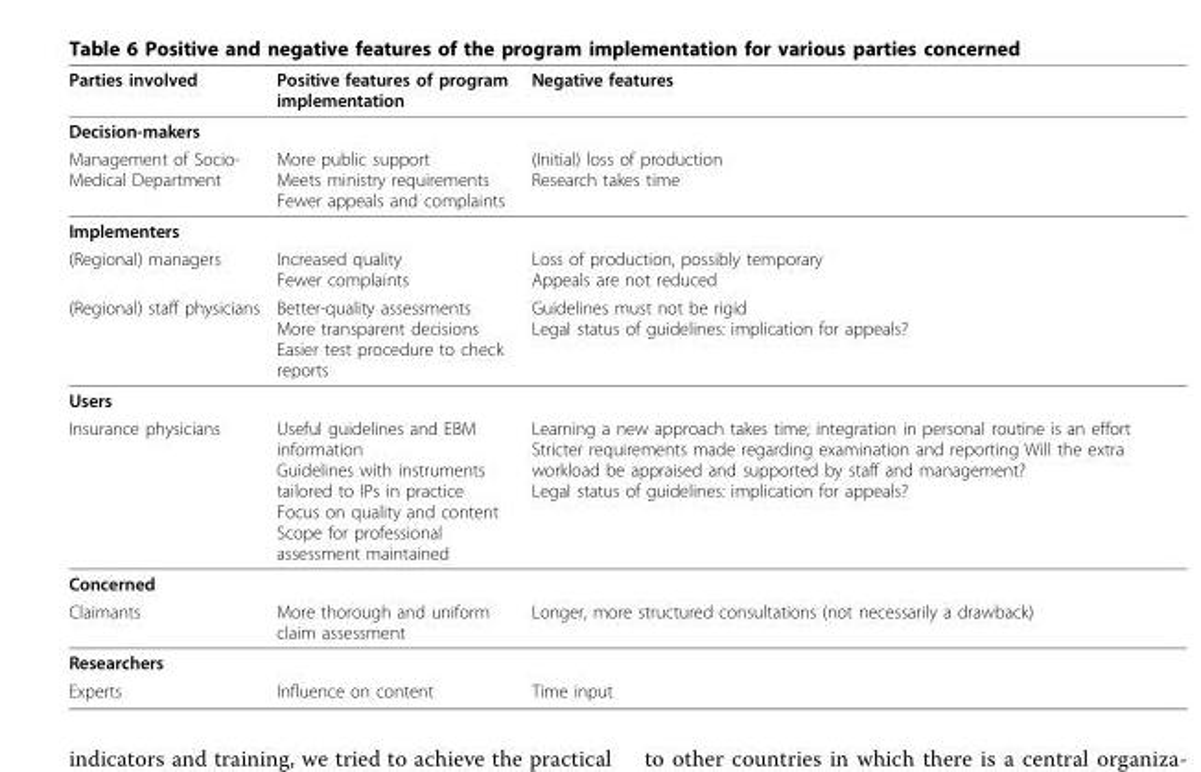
<table><thead><tr><td>Parties involved</td><td>Positive features of program implementation</td><td>Negative features</td></tr></thead><tbody><tr><td colspan="3">Decision-makers</td></tr><tr><td>Management of Socio- Medical Department</td><td>More public support Meets ministry requirements Fewer appeals and complaints</td><td>(Initial) loss of production Research takes time</td></tr><tr><td colspan="3">Implementers</td></tr><tr><td>(Regional) managers</td><td>Increased quality Fewer complaints</td><td>Loss of production, possibly temporary Appeals are not reduced</td></tr><tr><td>(Regional) staff physicians</td><td>Better-quality assessments More transparent decisions Easier test procedure to check reports</td><td>Guidelines must not be rigid Legal status of guidelines: implication for appeals?</td></tr><tr><td colspan="3">Users</td></tr><tr><td>Insurance physicians</td><td>Useful guidelines and EBM information Guidelines with instruments tailored to IPs in practice Focus on quality and content Scope for professional assessment maintained</td><td>Learning a new approach takes time; integration in personal routine is an effort Stricter requirements made regarding examination and reporting Will the extra workload be appraised and supported by staff and management? Legal status of guidelines: implication for appeals?</td></tr><tr><td colspan="3">Concerned</td></tr><tr><td>Claimants</td><td>More thorough and uniform claim assessment</td><td>Longer, more structured consultations (not necessarily a drawback)</td></tr><tr><td colspan="3">Researchers</td></tr><tr><td>Experts</td><td>Influence on content</td><td>Time input</td></tr></tbody></table>